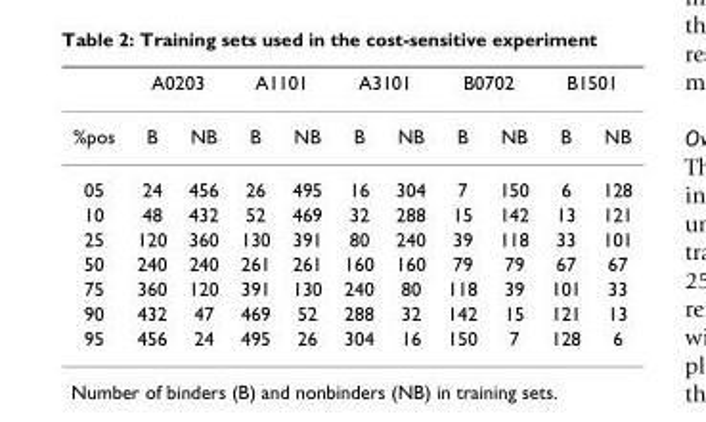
<table><thead><tr><td rowspan="2">%pos</td><td colspan="2">A0203</td><td colspan="2">A1101</td><td colspan="2">A3101</td><td colspan="2">B0702</td><td colspan="2">B1501</td></tr><tr><td>B</td><td>NB</td><td>B</td><td>NB</td><td>B</td><td>NB</td><td>B</td><td>NB</td><td>B</td><td>NB</td></tr></thead><tbody><tr><td>05</td><td>24</td><td>456</td><td>26</td><td>495</td><td>16</td><td>304</td><td>7</td><td>150</td><td>6</td><td>128</td></tr><tr><td>10</td><td>48</td><td>432</td><td>52</td><td>469</td><td>32</td><td>288</td><td>15</td><td>142</td><td>13</td><td>121</td></tr><tr><td>25</td><td>120</td><td>360</td><td>130</td><td>391</td><td>80</td><td>240</td><td>39</td><td>118</td><td>33</td><td>101</td></tr><tr><td>50</td><td>240</td><td>240</td><td>261</td><td>261</td><td>160</td><td>160</td><td>79</td><td>79</td><td>67</td><td>67</td></tr><tr><td>75</td><td>360</td><td>120</td><td>391</td><td>130</td><td>240</td><td>80</td><td>118</td><td>39</td><td>101</td><td>33</td></tr><tr><td>90</td><td>432</td><td>47</td><td>469</td><td>52</td><td>288</td><td>32</td><td>142</td><td>15</td><td>121</td><td>13</td></tr><tr><td>95</td><td>456</td><td>24</td><td>495</td><td>26</td><td>304</td><td>16</td><td>150</td><td>7</td><td>128</td><td>6</td></tr></tbody></table>